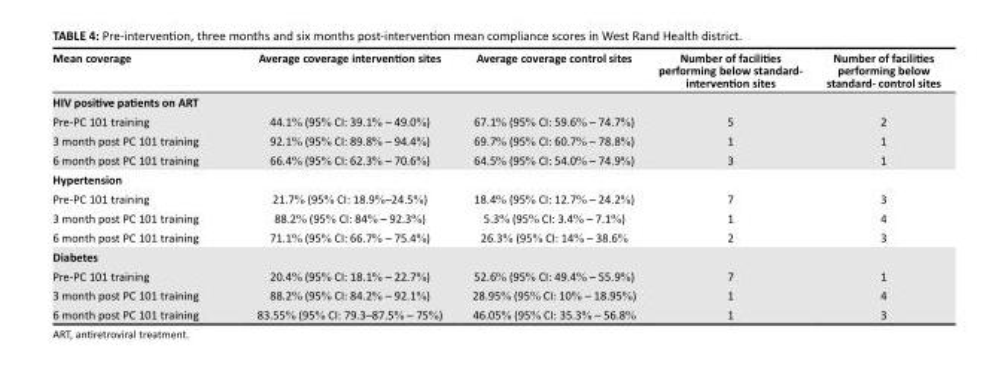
<table><thead><tr><td>Mean coverage</td><td>Average coverage intervention sites</td><td>Average coverage control sites</td><td>Number of facilities performing below standard- intervention sites</td><td>Number of facilities performing below standard- control sites</td></tr></thead><tbody><tr><td colspan="5">HIV positive patients on ART</td></tr><tr><td>Pre-PC 101 training</td><td>44.1% (95% CI: 39.1% – 49.0%)</td><td>67.1% (95% CI: 59.6% – 74.7%)</td><td>5</td><td>2</td></tr><tr><td>3 month post PC 101 training</td><td>92.1% (95% CI: 89.8% – 94.4%)</td><td>69.7% (95% CI: 60.7% – 78.8%)</td><td>1</td><td>1</td></tr><tr><td>6 month post PC 101 training</td><td>66.4% (95% CI: 62.3% – 70.6%)</td><td>64.5% (95% CI: 54.0% – 74.9%)</td><td>3</td><td>1</td></tr><tr><td colspan="5">Hypertension</td></tr><tr><td>Pre-PC 101 training</td><td>21.7% (95% CI: 18.9%–24.5%)</td><td>18.4% (95% CI: 12.7% – 24.2%)</td><td>7</td><td>3</td></tr><tr><td>3 month post PC 101 training</td><td>88.2% (95% CI: 84% – 92.3%)</td><td>5.3% (95% CI: 3.4% – 7.1%)</td><td>1</td><td>4</td></tr><tr><td>6 month post PC 101 training</td><td>71.1% (95% CI: 66.7% – 75.4%)</td><td>26.3% (95% CI: 14% – 38.6%</td><td>2</td><td>3</td></tr><tr><td colspan="5">Diabetes</td></tr><tr><td>Pre-PC 101 training</td><td>20.4% (95% CI: 18.1% – 22.7%)</td><td>52.6% (95% CI: 49.4% – 55.9%)</td><td>7</td><td>1</td></tr><tr><td>3 month post PC 101 training</td><td>88.2% (95% CI: 84.2% – 92.1%)</td><td>28.95% (95% CI: 10% – 18.95%)</td><td>1</td><td>4</td></tr><tr><td>6 month post PC 101 training</td><td>83.55% (95% CI: 79.3–87.5% – 75%)</td><td>46.05% (95% CI: 35.3% – 56.8%</td><td>1</td><td>3</td></tr></tbody></table>